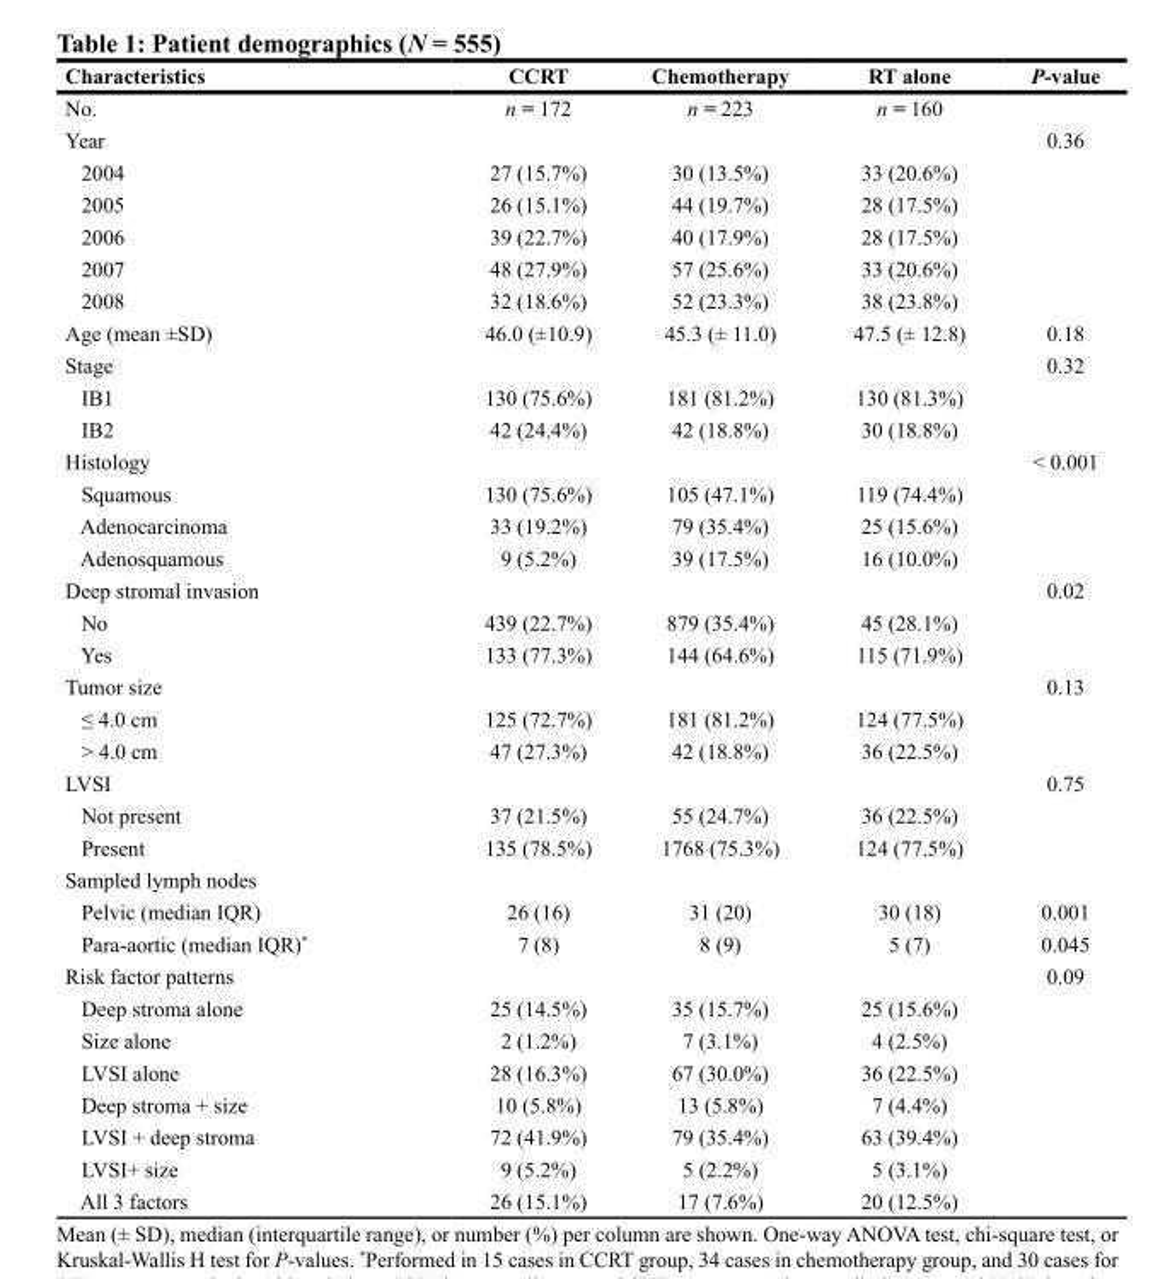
<table><thead><tr><td>Characteristics</td><td>CCRT</td><td>Chemotherapy</td><td>RT alone</td><td>P-value</td></tr></thead><tbody><tr><td>No.</td><td>n = 172</td><td>n = 223</td><td>n = 160</td><td></td></tr><tr><td>Year</td><td></td><td></td><td></td><td>0.36</td></tr><tr><td>2004</td><td>27 (15.7%)</td><td>30 (13.5%)</td><td>33 (20.6%)</td><td></td></tr><tr><td>2005</td><td>26 (15.1%)</td><td>44 (19.7%)</td><td>28 (17.5%)</td><td></td></tr><tr><td>2006</td><td>39 (22.7%)</td><td>40 (17.9%)</td><td>28 (17.5%)</td><td></td></tr><tr><td>2007</td><td>48 (27.9%)</td><td>57 (25.6%)</td><td>33 (20.6%)</td><td></td></tr><tr><td>2008</td><td>32 (18.6%)</td><td>52 (23.3%)</td><td>38 (23.8%)</td><td></td></tr><tr><td>Age (mean ±SD)</td><td>46.0 (±10.9)</td><td>45.3 (± 11.0)</td><td>47.5 (± 12.8)</td><td>0.18</td></tr><tr><td>Stage</td><td></td><td></td><td></td><td>0.32</td></tr><tr><td>IB1</td><td>130 (75.6%)</td><td>181 (81.2%)</td><td>130 (81.3%)</td><td></td></tr><tr><td>IB2</td><td>42 (24.4%)</td><td>42 (18.8%)</td><td>30 (18.8%)</td><td></td></tr><tr><td>Histology</td><td></td><td></td><td></td><td>&lt; 0.001</td></tr><tr><td>Squamous</td><td>130 (75.6%)</td><td>105 (47.1%)</td><td>119 (74.4%)</td><td></td></tr><tr><td>Adenocarcinoma</td><td>33 (19.2%)</td><td>79 (35.4%)</td><td>25 (15.6%)</td><td></td></tr><tr><td>Adenosquamous</td><td>9 (5.2%)</td><td>39 (17.5%)</td><td>16 (10.0%)</td><td></td></tr><tr><td>Deep stromal invasion</td><td></td><td></td><td></td><td>0.02</td></tr><tr><td>No</td><td>439 (22.7%)</td><td>879 (35.4%)</td><td>45 (28.1%)</td><td></td></tr><tr><td>Yes</td><td>133 (77.3%)</td><td>144 (64.6%)</td><td>115 (71.9%)</td><td></td></tr><tr><td>Tumor size</td><td></td><td></td><td></td><td>0.13</td></tr><tr><td>≤ 4.0 cm</td><td>125 (72.7%)</td><td>181 (81.2%)</td><td>124 (77.5%)</td><td></td></tr><tr><td>&gt; 4.0 cm</td><td>47 (27.3%)</td><td>42 (18.8%)</td><td>36 (22.5%)</td><td></td></tr><tr><td>LVSI</td><td></td><td></td><td></td><td>0.75</td></tr><tr><td>Not present</td><td>37 (21.5%)</td><td>55 (24.7%)</td><td>36 (22.5%)</td><td></td></tr><tr><td>Present</td><td>135 (78.5%)</td><td>1768 (75.3%)</td><td>124 (77.5%)</td><td></td></tr><tr><td colspan="5">Sampled lymph nodes</td></tr><tr><td>Pelvic (median IQR)</td><td>26 (16)</td><td>31 (20)</td><td>30 (18)</td><td>0.001</td></tr><tr><td>Para-aortic (median IQR)*</td><td>7 (8)</td><td>8 (9)</td><td>5 (7)</td><td>0.045</td></tr><tr><td>Risk factor patterns</td><td></td><td></td><td></td><td>0.09</td></tr><tr><td>Deep stroma alone</td><td>25 (14.5%)</td><td>35 (15.7%)</td><td>25 (15.6%)</td><td></td></tr><tr><td>Size alone</td><td>2 (1.2%)</td><td>7 (3.1%)</td><td>4 (2.5%)</td><td></td></tr><tr><td>LVSI alone</td><td>28 (16.3%)</td><td>67 (30.0%)</td><td>36 (22.5%)</td><td></td></tr><tr><td>Deep stroma + size</td><td>10 (5.8%)</td><td>13 (5.8%)</td><td>7 (4.4%)</td><td></td></tr><tr><td>LVSI + deep stroma</td><td>72 (41.9%)</td><td>79 (35.4%)</td><td>63 (39.4%)</td><td></td></tr><tr><td>LVSI+ size</td><td>9 (5.2%)</td><td>5 (2.2%)</td><td>5 (3.1%)</td><td></td></tr><tr><td>All 3 factors</td><td>26 (15.1%)</td><td>17 (7.6%)</td><td>20 (12.5%)</td><td></td></tr></tbody></table>